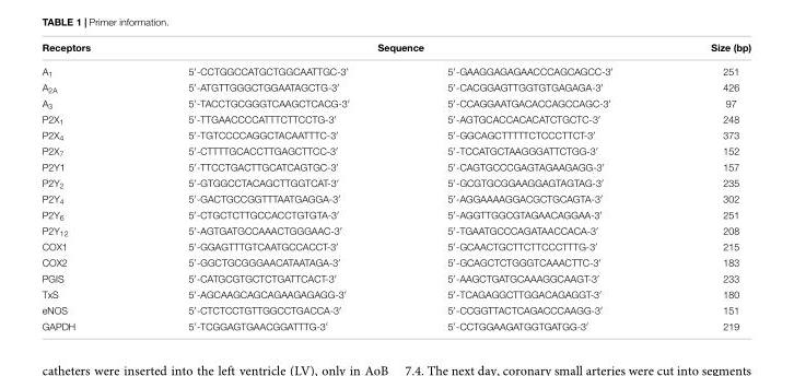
<table><thead><tr><td rowspan="2">Receptors A<sub>1</sub></td><td colspan="2">Sequence</td><td rowspan="2">Size (bp) 251</td></tr><tr><td>5′-CCTGGCCATGCTGGCAATTGC-3′</td><td>5′-GAAGGAGAGAACCCAGCAGCC-3′</td></tr></thead><tbody><tr><td>A<sub>2A</sub></td><td>5′-ATGTTGGGCTGGAATAGCTG-3′</td><td>5′-CACGGAGTTGGTGTGAGAGA-3′</td><td>426</td></tr><tr><td>A<sub>3</sub></td><td>5′-TACCTGCGGGTCAAGCTCACG-3′</td><td>5′-CCAGGAATGACACCAGCCAGC-3′</td><td>97</td></tr><tr><td>P2X<sub>1</sub></td><td>5′-TTGAACCCCATTTCTTCCTG-3′</td><td>5′-AGTGCACCACACATCTGCTC-3′</td><td>248</td></tr><tr><td>P2X<sub>4</sub></td><td>5′-TGTCCCCAGGCTACAATTTC-3′</td><td>5′-GGCAGCTTTTTCTCCCTTCT-3′</td><td>373</td></tr><tr><td>P2X<sub>7</sub></td><td>5′-CTTTTGCACCTTGAGCTTCC-3′</td><td>5′-TCCATGCTAAGGGATTCTGG-3′</td><td>152</td></tr><tr><td>P2Y1</td><td>5′-TTCCTGACTTGCATCAGTGC-3′</td><td>5′-CAGTGCCCGAGTAGAAGAGG-3′</td><td>157</td></tr><tr><td>P2Y<sub>2</sub></td><td>5′-GTGGCCTACAGCTTGGTCAT-3′</td><td>5′-GCGTGCGGAAGGAGTAGTAG-3′</td><td>235</td></tr><tr><td>P2Y<sub>4</sub></td><td>5′-GACTGCCGGTTTAATGAGGA-3′</td><td>5′-AGGAAAAGGACGCTGCAGTA-3′</td><td>302</td></tr><tr><td>P2Y<sub>6</sub></td><td>5′-CTGCTCTTGCCACCTGTGTA-3′</td><td>5′-AGGTTGGCGTAGAACAGGAA-3′</td><td>251</td></tr><tr><td>P2Y<sub>12</sub></td><td>5′-AGTGATGCCAAACTGGGAAC-3′</td><td>5′-TGAATGCCCAGATAACCACA-3′</td><td>208</td></tr><tr><td>COX1</td><td>5′-GGAGTTTGTCAATGCCACCT-3′</td><td>5′-GCAACTGCTTCTTCCCTTTG-3′</td><td>215</td></tr><tr><td>COX2</td><td>5′-GGCTGCGGGAACATAATAGA-3′</td><td>5′-GCAGCTCTGGGTCAAACTTC-3′</td><td>183</td></tr><tr><td>PGIS</td><td>5′-CATGCGTGCTCTGATTCACT-3′</td><td>5′-AAGCTGATGCAAAGGCAAGT-3′</td><td>233</td></tr><tr><td>TxS</td><td>5′-AGCAAGCAGCAGAAGAGAGG-3′</td><td>5′-TCAGAGGCTTGGACAGAGGT-3′</td><td>180</td></tr><tr><td>eNOS</td><td>5′-CTCTCCTGTTGGCCTGACCA-3′</td><td>5′-CCGGTTACTCAGACCCAAGG-3′</td><td>151</td></tr><tr><td>GAPDH</td><td>5′-TCGGAGTGAACGGATTTG-3′</td><td>5′-CCTGGAAGATGGTGATGG-3′</td><td>219</td></tr></tbody></table>